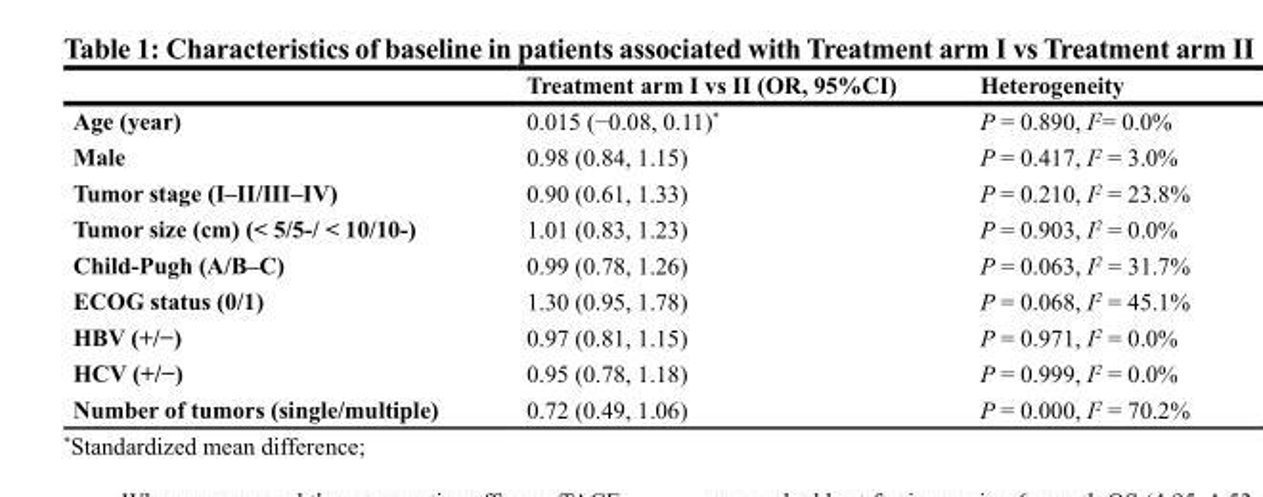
<table><thead><tr><td></td><td>Treatment arm I vs II (OR, 95%CI)</td><td>Heterogeneity</td></tr></thead><tbody><tr><td>Age (year)</td><td>0.015 (−0.08, 0.11)*</td><td>P = 0.890, I<sup>2</sup>= 0.0%</td></tr><tr><td>Male</td><td>0.98 (0.84, 1.15)</td><td>P = 0.417, I<sup>2</sup> = 3.0%</td></tr><tr><td>Tumor stage (I–II/III–IV)</td><td>0.90 (0.61, 1.33)</td><td>P = 0.210, I<sup>2</sup> = 23.8%</td></tr><tr><td>Tumor size (cm) (&lt; 5/5-/ &lt; 10/10-)</td><td>1.01 (0.83, 1.23)</td><td>P = 0.903, I<sup>2</sup> = 0.0%</td></tr><tr><td>Child-Pugh (A/B–C)</td><td>0.99 (0.78, 1.26)</td><td>P = 0.063, I<sup>2</sup> = 31.7%</td></tr><tr><td>ECOG status (0/1)</td><td>1.30 (0.95, 1.78)</td><td>P = 0.068, I<sup>2</sup> = 45.1%</td></tr><tr><td>HBV (+/−)</td><td>0.97 (0.81, 1.15)</td><td>P = 0.971, I<sup>2</sup> = 0.0%</td></tr><tr><td>HCV (+/−)</td><td>0.95 (0.78, 1.18)</td><td>P = 0.999, I<sup>2</sup> = 0.0%</td></tr><tr><td>Number of tumors (single/multiple)</td><td>0.72 (0.49, 1.06)</td><td>P = 0.000, I<sup>2</sup> = 70.2%</td></tr></tbody></table>